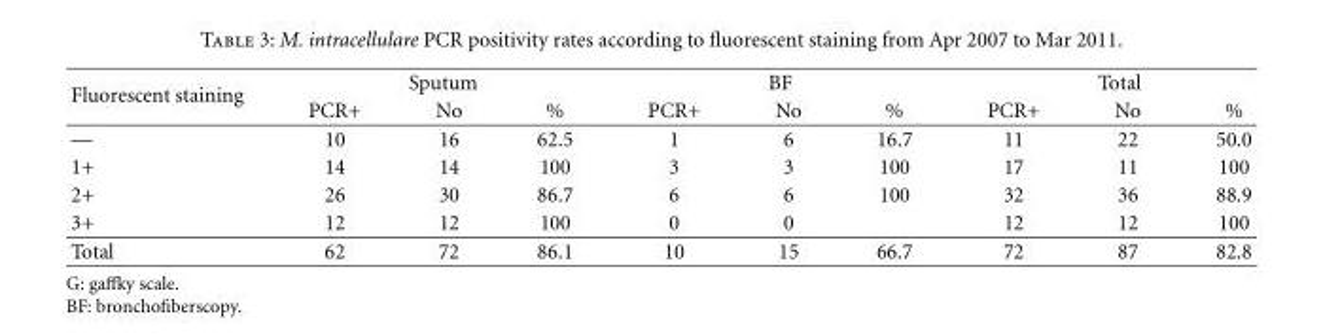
<table><thead><tr><td rowspan="2">Fluorescent staining</td><td colspan="3">Sputum</td><td colspan="3">BF</td><td colspan="3">Total</td></tr><tr><td>PCR+</td><td>No</td><td>%</td><td>PCR+</td><td>No</td><td>%</td><td>PCR+</td><td>No</td><td>%</td></tr></thead><tbody><tr><td>—</td><td>10</td><td>16</td><td>62.5</td><td>1</td><td>6</td><td>16.7</td><td>11</td><td>22</td><td>50.0</td></tr><tr><td>1+</td><td>14</td><td>14</td><td>100</td><td>3</td><td>3</td><td>100</td><td>17</td><td>11</td><td>100</td></tr><tr><td>2+</td><td>26</td><td>30</td><td>86.7</td><td>6</td><td>6</td><td>100</td><td>32</td><td>36</td><td>88.9</td></tr><tr><td>3+</td><td>12</td><td>12</td><td>100</td><td>0</td><td>0</td><td></td><td>12</td><td>12</td><td>100</td></tr><tr><td>Total</td><td>62</td><td>72</td><td>86.1</td><td>10</td><td>15</td><td>66.7</td><td>72</td><td>87</td><td>82.8</td></tr></tbody></table>